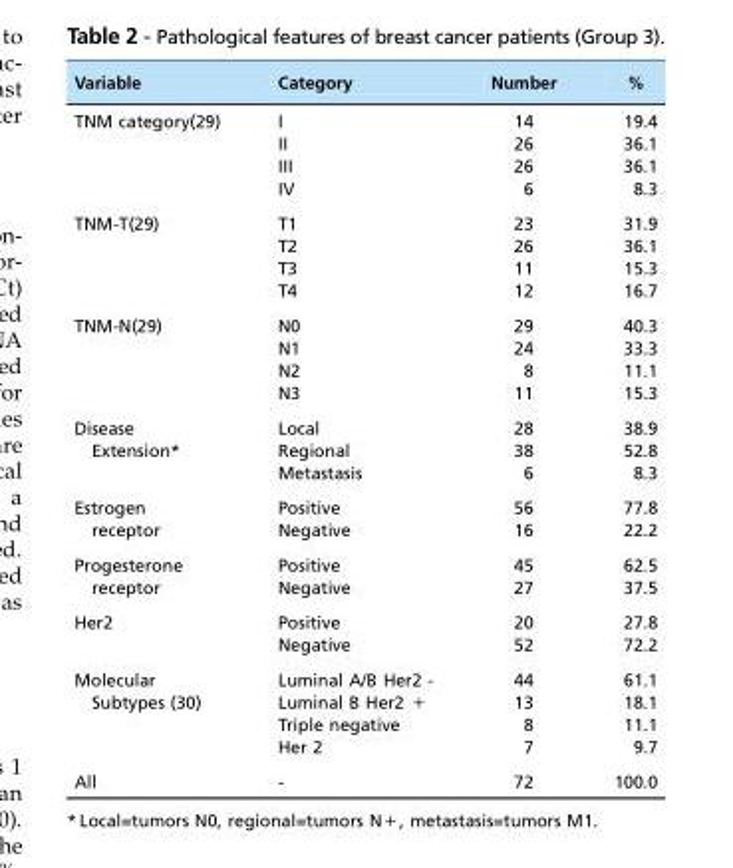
<table><thead><tr><td>Variable</td><td>Category</td><td>Number</td><td>%</td></tr></thead><tbody><tr><td rowspan="4">TNM category(29)</td><td>I</td><td>14</td><td>19.4</td></tr><tr><td>II</td><td>26</td><td>36.1</td></tr><tr><td>III</td><td>26</td><td>36.1</td></tr><tr><td>IV</td><td>6</td><td>8.3</td></tr><tr><td rowspan="4">TNM-T(29)</td><td>T1</td><td>23</td><td>31.9</td></tr><tr><td>T2</td><td>26</td><td>36.1</td></tr><tr><td>T3</td><td>11</td><td>15.3</td></tr><tr><td>T4</td><td>12</td><td>16.7</td></tr><tr><td rowspan="4">TNM-N(29)</td><td>N0</td><td>29</td><td>40.3</td></tr><tr><td>N1</td><td>24</td><td>33.3</td></tr><tr><td>N2</td><td>8</td><td>11.1</td></tr><tr><td>N3</td><td>11</td><td>15.3</td></tr><tr><td>Disease</td><td>Local</td><td>28</td><td>38.9</td></tr><tr><td rowspan="2">Extension*</td><td>Regional</td><td>38</td><td>52.8</td></tr><tr><td>Metastasis</td><td>6</td><td>8.3</td></tr><tr><td>Estrogen</td><td>Positive</td><td>56</td><td>77.8</td></tr><tr><td>receptor</td><td>Negative</td><td>16</td><td>22.2</td></tr><tr><td>Progesterone</td><td>Positive</td><td>45</td><td>62.5</td></tr><tr><td>receptor</td><td>Negative</td><td>27</td><td>37.5</td></tr><tr><td rowspan="2">Her2</td><td>Positive</td><td>20</td><td>27.8</td></tr><tr><td>Negative</td><td>52</td><td>72.2</td></tr><tr><td>Molecular</td><td>Luminal A/B Her2 -</td><td>44</td><td>61.1</td></tr><tr><td rowspan="3">Subtypes (30)</td><td>Luminal B Her2 +</td><td>13</td><td>18.1</td></tr><tr><td>Triple negative</td><td>8</td><td>11.1</td></tr><tr><td>Her 2</td><td>7</td><td>9.7</td></tr><tr><td>All</td><td>-</td><td>72</td><td>100.0</td></tr></tbody></table>